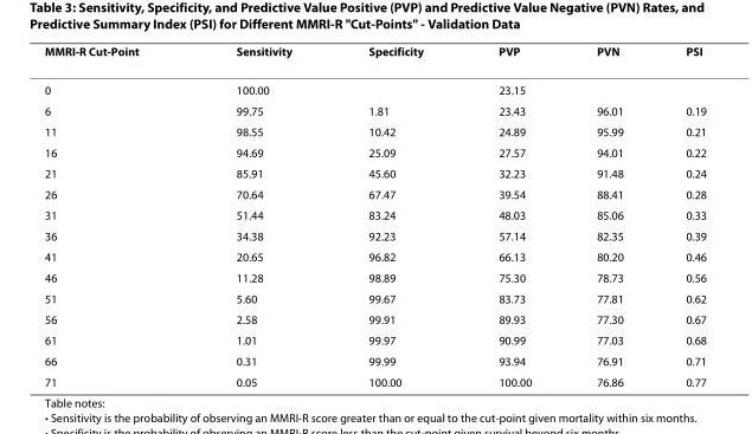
<table><thead><tr><td>MMRI-R Cut-Point</td><td>Sensitivity</td><td>Specificity</td><td>PVP</td><td>PVN</td><td>PSI</td></tr></thead><tbody><tr><td>0</td><td>100.00</td><td></td><td>23.15</td><td></td><td></td></tr><tr><td>6</td><td>99.75</td><td>1.81</td><td>23.43</td><td>96.01</td><td>0.19</td></tr><tr><td>11</td><td>98.55</td><td>10.42</td><td>24.89</td><td>95.99</td><td>0.21</td></tr><tr><td>16</td><td>94.69</td><td>25.09</td><td>27.57</td><td>94.01</td><td>0.22</td></tr><tr><td>21</td><td>85.91</td><td>45.60</td><td>32.23</td><td>91.48</td><td>0.24</td></tr><tr><td>26</td><td>70.64</td><td>67.47</td><td>39.54</td><td>88.41</td><td>0.28</td></tr><tr><td>31</td><td>51.44</td><td>83.24</td><td>48.03</td><td>85.06</td><td>0.33</td></tr><tr><td>36</td><td>34.38</td><td>92.23</td><td>57.14</td><td>82.35</td><td>0.39</td></tr><tr><td>41</td><td>20.65</td><td>96.82</td><td>66.13</td><td>80.20</td><td>0.46</td></tr><tr><td>46</td><td>11.28</td><td>98.89</td><td>75.30</td><td>78.73</td><td>0.56</td></tr><tr><td>51</td><td>5.60</td><td>99.67</td><td>83.73</td><td>77.81</td><td>0.62</td></tr><tr><td>56</td><td>2.58</td><td>99.91</td><td>89.93</td><td>77.30</td><td>0.67</td></tr><tr><td>61</td><td>1.01</td><td>99.97</td><td>90.99</td><td>77.03</td><td>0.68</td></tr><tr><td>66</td><td>0.31</td><td>99.99</td><td>93.94</td><td>76.91</td><td>0.71</td></tr><tr><td>71</td><td>0.05</td><td>100.00</td><td>100.00</td><td>76.86</td><td>0.77</td></tr></tbody></table>